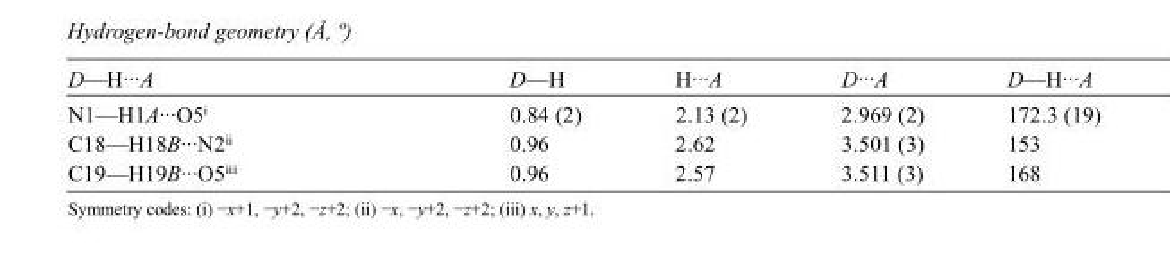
<table><tbody><tr><td>D—H···A</td><td>D—H</td><td>H···A</td><td>D···A</td><td>D—H···A</td></tr><tr><td>N1—H1A···O5<sup>i</sup></td><td>0.84 (2)</td><td>2.13 (2)</td><td>2.969 (2)</td><td>172.3 (19)</td></tr><tr><td>C18—H18B···N2<sup>ii</sup></td><td>0.96</td><td>2.62</td><td>3.501 (3)</td><td>153</td></tr><tr><td>C19—H19B···O5<sup>iii</sup></td><td>0.96</td><td>2.57</td><td>3.511 (3)</td><td>168</td></tr></tbody></table>